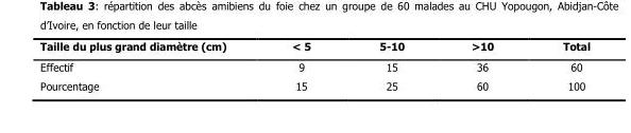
<table><thead><tr><td>Taille du plus grand diamètre (cm)</td><td>&lt; 5</td><td>5-10</td><td>&gt;10</td><td>Total</td></tr></thead><tbody><tr><td>Effectif</td><td>9</td><td>15</td><td>36</td><td>60</td></tr><tr><td>Pourcentage</td><td>15</td><td>25</td><td>60</td><td>100</td></tr></tbody></table>